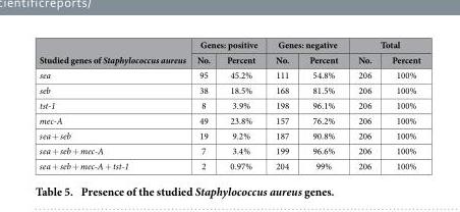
<table><thead><tr><td rowspan="2">Studied genes of Staphylococcus aureus</td><td colspan="2">Genes: positive</td><td colspan="2">Genes: negative</td><td colspan="2">Total</td></tr><tr><td>No.</td><td>Percent</td><td>No.</td><td>Percent</td><td>No.</td><td>Percent</td></tr></thead><tbody><tr><td>sea</td><td>95</td><td>45.2%</td><td>111</td><td>54.8%</td><td>206</td><td>100%</td></tr><tr><td>seb</td><td>38</td><td>18.5%</td><td>168</td><td>81.5%</td><td>206</td><td>100%</td></tr><tr><td>tst-1</td><td>8</td><td>3.9%</td><td>198</td><td>96.1%</td><td>206</td><td>100%</td></tr><tr><td>mec-A</td><td>49</td><td>23.8%</td><td>157</td><td>76.2%</td><td>206</td><td>100%</td></tr><tr><td>sea + seb</td><td>19</td><td>9.2%</td><td>187</td><td>90.8%</td><td>206</td><td>100%</td></tr><tr><td>sea + seb + mec-A</td><td>7</td><td>3.4%</td><td>199</td><td>96.6%</td><td>206</td><td>100%</td></tr><tr><td>sea + seb + mec-A + tst-1</td><td>2</td><td>0.97%</td><td>204</td><td>99%</td><td>206</td><td>100%</td></tr></tbody></table>